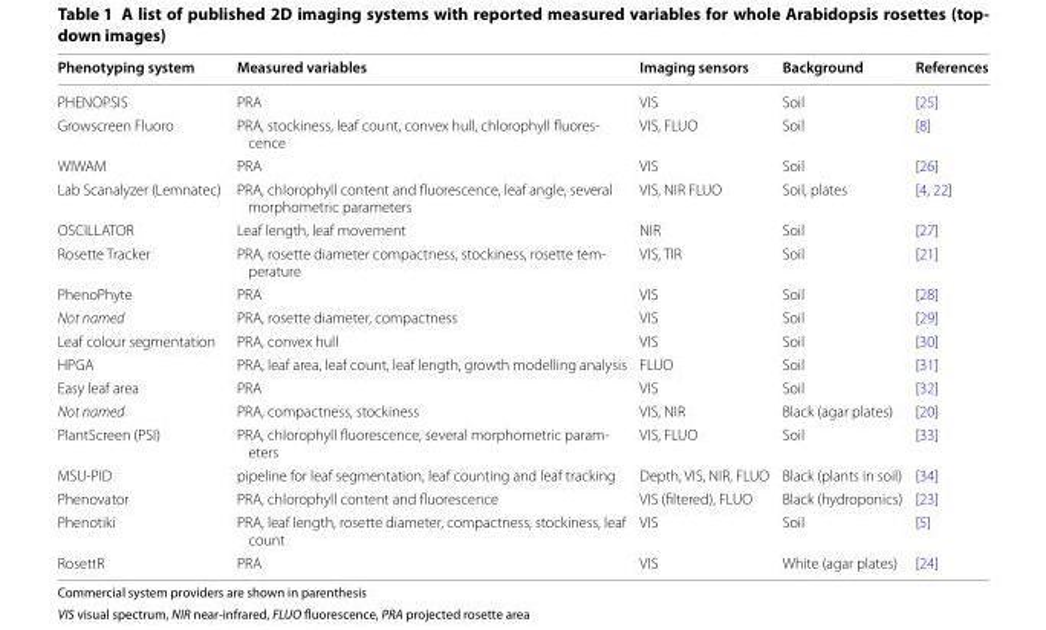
<table><thead><tr><td>Phenotyping system</td><td>Measured variables</td><td>Imaging sensors</td><td>Background</td><td>References</td></tr></thead><tbody><tr><td>PHENOPSIS</td><td>PRA</td><td>VIS</td><td>Soil</td><td>[25]</td></tr><tr><td>Growscreen Fluoro</td><td>PRA, stockiness, leaf count, convex hull, chlorophyll fluores- cence</td><td>VIS, FLUO</td><td>Soil</td><td>[8]</td></tr><tr><td>WIWAM</td><td>PRA</td><td>VIS</td><td>Soil</td><td>[26]</td></tr><tr><td>Lab Scanalyzer (Lemnatec)</td><td>PRA, chlorophyll content and fluorescence, leaf angle, several morphometric parameters</td><td>VIS, NIR FLUO</td><td>Soil, plates</td><td>[4, 22]</td></tr><tr><td>OSCILLATOR</td><td>Leaf length, leaf movement</td><td>NIR</td><td>Soil</td><td>[27]</td></tr><tr><td>Rosette Tracker</td><td>PRA, rosette diameter compactness, stockiness, rosette tem- perature</td><td>VIS, TIR</td><td>Soil</td><td>[21]</td></tr><tr><td>PhenoPhyte</td><td>PRA</td><td>VIS</td><td>Soil</td><td>[28]</td></tr><tr><td>Not named</td><td>PRA, rosette diameter, compactness</td><td>VIS</td><td>Soil</td><td>[29]</td></tr><tr><td>Leaf colour segmentation</td><td>PRA, convex hull</td><td>VIS</td><td>Soil</td><td>[30]</td></tr><tr><td>HPGA</td><td>PRA, leaf area, leaf count, leaf length, growth modelling analysis</td><td>FLUO</td><td>Soil</td><td>[31]</td></tr><tr><td>Easy leaf area</td><td>PRA</td><td>VIS</td><td>Soil</td><td>[32]</td></tr><tr><td>Not named</td><td>PRA, compactness, stockiness</td><td>VIS, NIR</td><td>Black (agar plates)</td><td>[20]</td></tr><tr><td>PlantScreen (PSI)</td><td>PRA, chlorophyll fluorescence, several morphometric param- eters</td><td>VIS, FLUO</td><td>Soil</td><td>[33]</td></tr><tr><td>MSU-PID</td><td>pipeline for leaf segmentation, leaf counting and leaf tracking</td><td>Depth, VIS, NIR, FLUO</td><td>Black (plants in soil)</td><td>[34]</td></tr><tr><td>Phenovator</td><td>PRA, chlorophyll content and fluorescence</td><td>VIS (filtered), FLUO</td><td>Black (hydroponics)</td><td>[23]</td></tr><tr><td>Phenotiki</td><td>PRA, leaf length, rosette diameter, compactness, stockiness, leaf count</td><td>VIS</td><td>Soil</td><td>[5]</td></tr><tr><td>RosettR</td><td>PRA</td><td>VIS</td><td>White (agar plates)</td><td>[24]</td></tr></tbody></table>